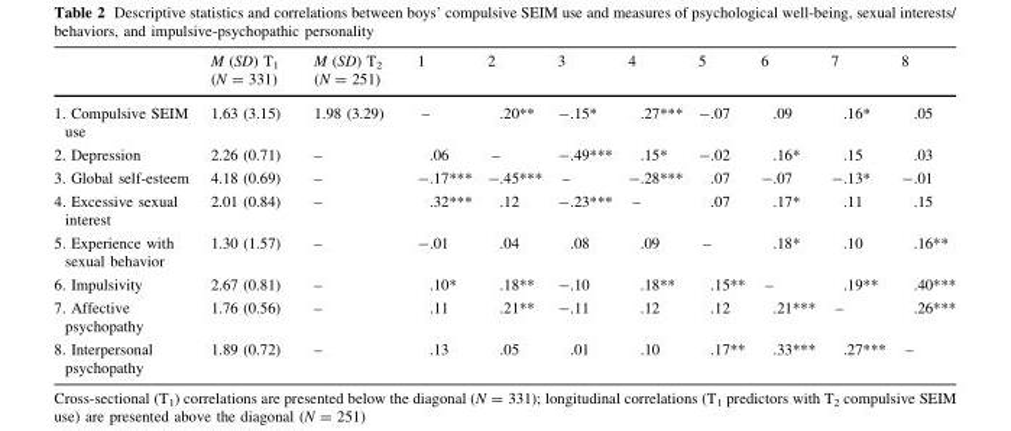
<table><thead><tr><td></td><td>M (SD) T<sub>1</sub> (N = 331)</td><td>M (SD) T<sub>2</sub> (N = 251)</td><td>1</td><td>2</td><td>3</td><td>4</td><td>5</td><td>6</td><td>7</td><td>8</td></tr></thead><tbody><tr><td>1. Compulsive SEIM use</td><td>1.63 (3.15)</td><td>1.98 (3.29)</td><td>–</td><td>.20**</td><td>-.15*</td><td>.27***</td><td>-.07</td><td>.09</td><td>.16*</td><td>.05</td></tr><tr><td>2. Depression</td><td>2.26 (0.71)</td><td>–</td><td>.06</td><td>–</td><td>-.49***</td><td>.15*</td><td>-.02</td><td>.16*</td><td>.15</td><td>.03</td></tr><tr><td>3. Global self-esteem</td><td>4.18 (0.69)</td><td>–</td><td>-.17***</td><td>-.45***</td><td>–</td><td>-.28***</td><td>.07</td><td>-.07</td><td>-.13*</td><td>-.01</td></tr><tr><td>4. Excessive sexual interest</td><td>2.01 (0.84)</td><td>–</td><td>.32***</td><td>.12</td><td>-.23***</td><td>–</td><td>.07</td><td>.17*</td><td>.11</td><td>.15</td></tr><tr><td>5. Experience with sexual behavior</td><td>1.30 (1.57)</td><td>–</td><td>-.01</td><td>.04</td><td>.08</td><td>.09</td><td>–</td><td>.18*</td><td>.10</td><td>.16**</td></tr><tr><td>6. Impulsivity</td><td>2.67 (0.81)</td><td>–</td><td>.10*</td><td>.18**</td><td>-.10</td><td>.18**</td><td>.15**</td><td>–</td><td>.19**</td><td>.40***</td></tr><tr><td>7. Affective psychopathy</td><td>1.76 (0.56)</td><td>–</td><td>.11</td><td>.21**</td><td>-.11</td><td>.12</td><td>.12</td><td>.21***</td><td>–</td><td>.26***</td></tr><tr><td>8. Interpersonal psychopathy</td><td>1.89 (0.72)</td><td>–</td><td>.13</td><td>.05</td><td>.01</td><td>.10</td><td>.17**</td><td>.33***</td><td>.27***</td><td>–</td></tr></tbody></table>